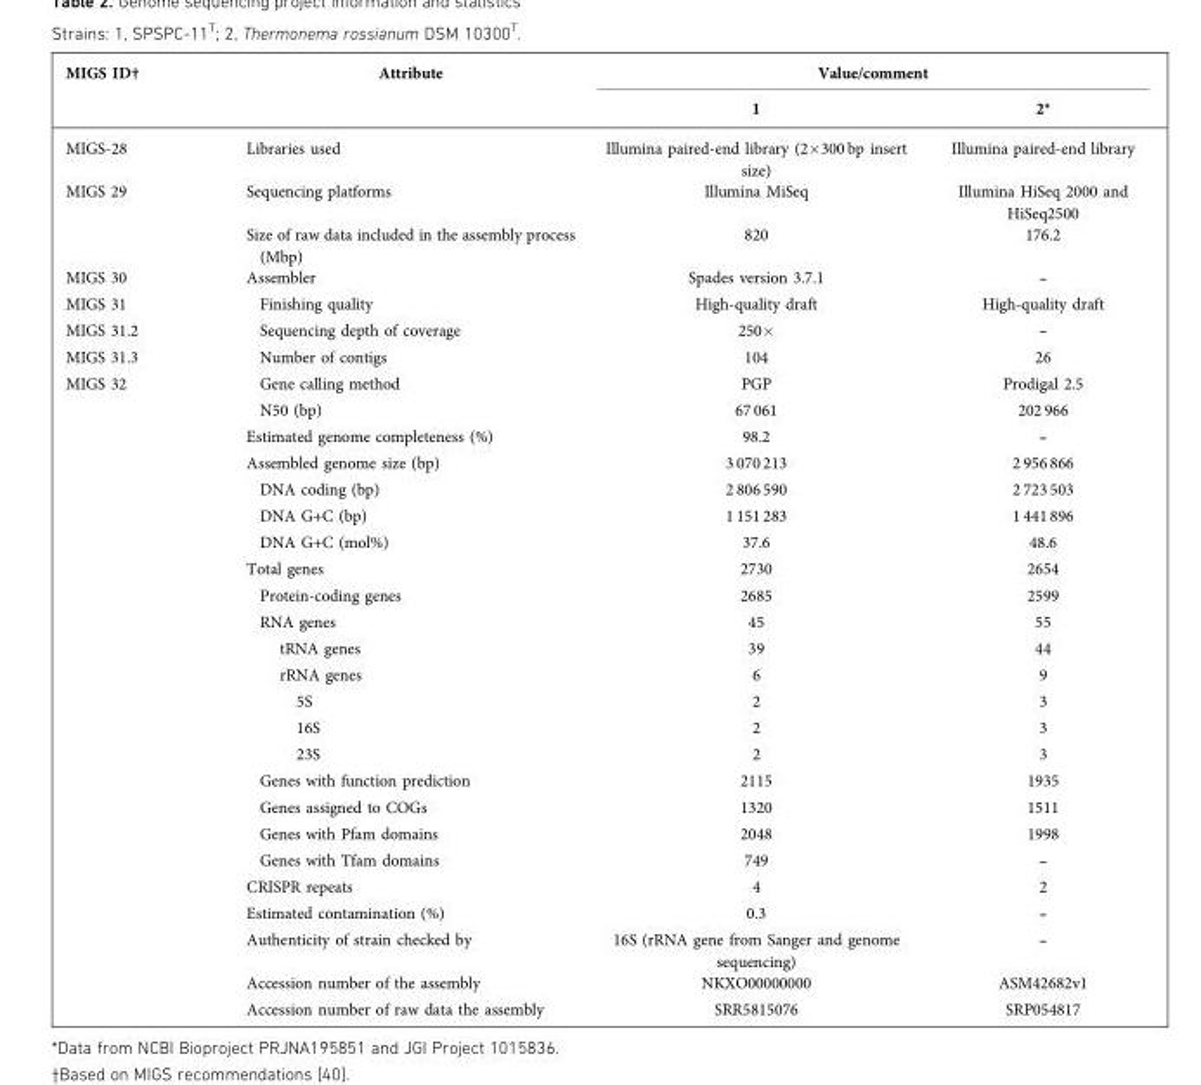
<table><thead><tr><td rowspan="2">MIGS ID†</td><td rowspan="2">Attribute</td><td colspan="2">Value/comment</td></tr><tr><td>1</td><td>2*</td></tr></thead><tbody><tr><td>MIGS-28</td><td>Libraries used</td><td>Illumina paired-end library (2×300 bp insert size)</td><td>Illumina paired-end library</td></tr><tr><td rowspan="2">MIGS 29</td><td>Sequencing platforms</td><td>Illumina MiSeq</td><td>Illumina HiSeq 2000 and HiSeq2500</td></tr><tr><td>Size of raw data included in the assembly process (Mbp)</td><td>820</td><td>176.2</td></tr><tr><td>MIGS 30</td><td>Assembler</td><td>Spades version 3.7.1</td><td>--</td></tr><tr><td>MIGS 31</td><td>Finishing quality</td><td>High-quality draft</td><td>High-quality draft</td></tr><tr><td>MIGS 31.2</td><td>Sequencing depth of coverage</td><td>250×</td><td>--</td></tr><tr><td>MIGS 31.3</td><td>Number of contigs</td><td>104</td><td>26</td></tr><tr><td rowspan="24">MIGS 32</td><td>Gene calling method</td><td>PGP</td><td>Prodigal 2.5</td></tr><tr><td>N50 (bp)</td><td>67 061</td><td>202 966</td></tr><tr><td>Estimated genome completeness (%)</td><td>98.2</td><td>--</td></tr><tr><td>Assembled genome size (bp)</td><td>3 070 213</td><td>2 956 866</td></tr><tr><td>DNA coding (bp)</td><td>2 806 590</td><td>2 723 503</td></tr><tr><td>DNA G+C (bp)</td><td>1 151 283</td><td>1 441 896</td></tr><tr><td>DNA G+C (mol%)</td><td>37.6</td><td>48.6</td></tr><tr><td>Total genes</td><td>2730</td><td>2654</td></tr><tr><td>Protein-coding genes</td><td>2685</td><td>2599</td></tr><tr><td>RNA genes</td><td>45</td><td>55</td></tr><tr><td>tRNA genes</td><td>39</td><td>44</td></tr><tr><td>rRNA genes</td><td>6</td><td>9</td></tr><tr><td>5S</td><td>2</td><td>3</td></tr><tr><td>16S</td><td>2</td><td>3</td></tr><tr><td>23S</td><td>2</td><td>3</td></tr><tr><td>Genes with function prediction</td><td>2115</td><td>1935</td></tr><tr><td>Genes assigned to COGs</td><td>1320</td><td>1511</td></tr><tr><td>Genes with Pfam domains</td><td>2048</td><td>1998</td></tr><tr><td>Genes with Tfam domains</td><td>749</td><td>--</td></tr><tr><td>CRISPR repeats</td><td>4</td><td>2</td></tr><tr><td>Estimated contamination (%)</td><td>0.3</td><td>--</td></tr><tr><td>Authenticity of strain checked by</td><td>16S (rRNA gene from Sanger and genome sequencing)</td><td>--</td></tr><tr><td>Accession number of the assembly</td><td>NKXO00000000</td><td>ASM42682v1</td></tr><tr><td>Accession number of raw data the assembly</td><td>SRR5815076</td><td>SRP054817</td></tr></tbody></table>